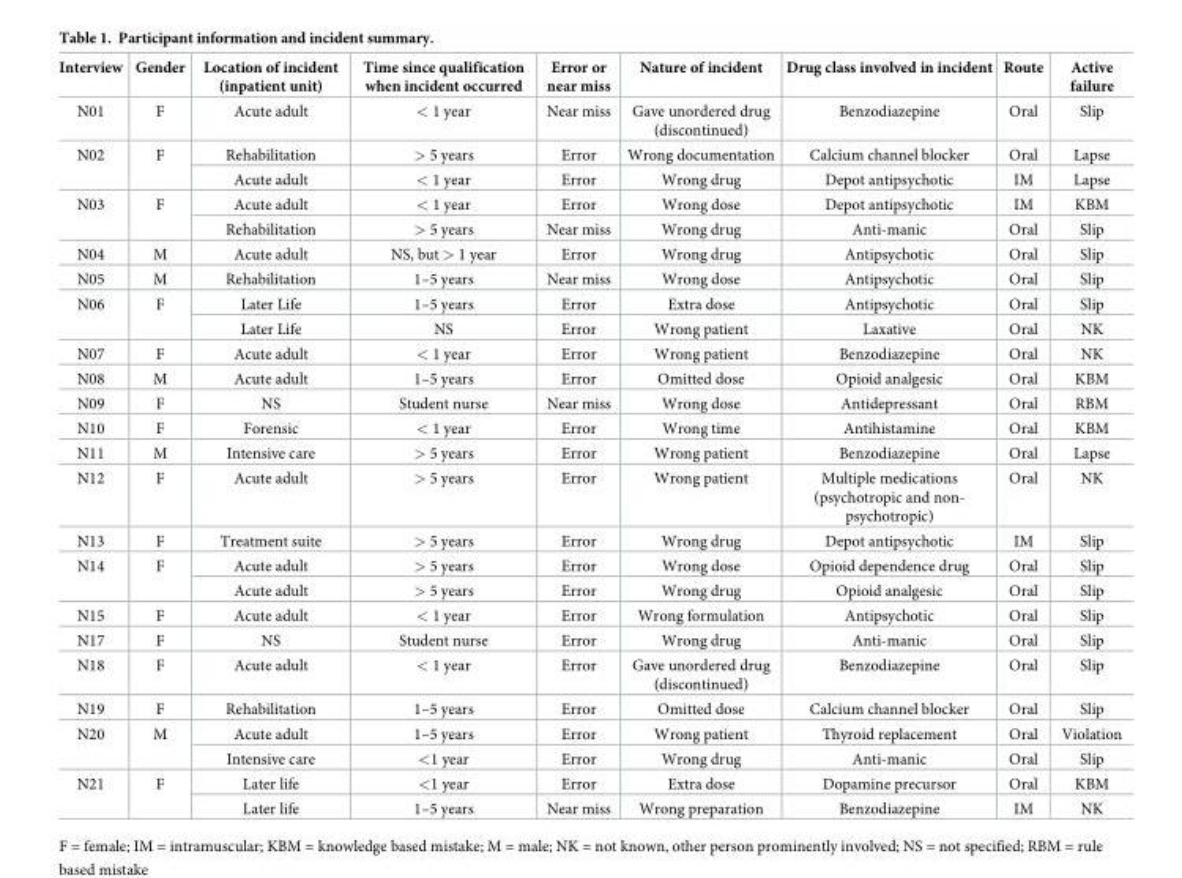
<table><thead><tr><td>Interview</td><td>Gender</td><td>Location of incident (inpatient unit)</td><td>Time since qualification when incident occurred</td><td>Error or near miss</td><td>Nature of incident</td><td>Drug class involved in incident</td><td>Route</td><td>Active failure</td></tr></thead><tbody><tr><td>N01</td><td>F</td><td>Acute adult</td><td>&lt; 1 year</td><td>Near miss</td><td>Gave unordered drug (discontinued)</td><td>Benzodiazepine</td><td>Oral</td><td>Slip</td></tr><tr><td rowspan="2">N02</td><td rowspan="2">F</td><td>Rehabilitation</td><td>&gt; 5 years</td><td>Error</td><td>Wrong documentation</td><td>Calcium channel blocker</td><td>Oral</td><td>Lapse</td></tr><tr><td>Acute adult</td><td>&lt; 1 year</td><td>Error</td><td>Wrong drug</td><td>Depot antipsychotic</td><td>IM</td><td>Lapse</td></tr><tr><td rowspan="2">N03</td><td rowspan="2">F</td><td>Acute adult</td><td>&lt; 1 year</td><td>Error</td><td>Wrong dose</td><td>Depot antipsychotic</td><td>IM</td><td>KBM</td></tr><tr><td>Rehabilitation</td><td>&gt; 5 years</td><td>Near miss</td><td>Wrong drug</td><td>Anti-manic</td><td>Oral</td><td>Slip</td></tr><tr><td>N04</td><td>M</td><td>Acute adult</td><td>NS, but &gt; 1 year</td><td>Error</td><td>Wrong drug</td><td>Antipsychotic</td><td>Oral</td><td>Slip</td></tr><tr><td>N05</td><td>M</td><td>Rehabilitation</td><td>1–5 years</td><td>Near miss</td><td>Wrong dose</td><td>Antipsychotic</td><td>Oral</td><td>Slip</td></tr><tr><td rowspan="2">N06</td><td rowspan="2">F</td><td>Later Life</td><td>1–5 years</td><td>Error</td><td>Extra dose</td><td>Antipsychotic</td><td>Oral</td><td>Slip</td></tr><tr><td>Later Life</td><td>NS</td><td>Error</td><td>Wrong patient</td><td>Laxative</td><td>Oral</td><td>NK</td></tr><tr><td>N07</td><td>F</td><td>Acute adult</td><td>&lt; 1 year</td><td>Error</td><td>Wrong patient</td><td>Benzodiazepine</td><td>Oral</td><td>NK</td></tr><tr><td>N08</td><td>M</td><td>Acute adult</td><td>1–5 years</td><td>Error</td><td>Omitted dose</td><td>Opioid analgesic</td><td>Oral</td><td>KBM</td></tr><tr><td>N09</td><td>F</td><td>NS</td><td>Student nurse</td><td>Near miss</td><td>Wrong dose</td><td>Antidepressant</td><td>Oral</td><td>RBM</td></tr><tr><td>N10</td><td>F</td><td>Forensic</td><td>&lt; 1 year</td><td>Error</td><td>Wrong time</td><td>Antihistamine</td><td>Oral</td><td>KBM</td></tr><tr><td>N11</td><td>M</td><td>Intensive care</td><td>&gt; 5 years</td><td>Error</td><td>Wrong patient</td><td>Benzodiazepine</td><td>Oral</td><td>Lapse</td></tr><tr><td>N12</td><td>F</td><td>Acute adult</td><td>&gt; 5 years</td><td>Error</td><td>Wrong patient</td><td>Multiple medications (psychotropic and non- psychotropic)</td><td>Oral</td><td>NK</td></tr><tr><td>N13</td><td>F</td><td>Treatment suite</td><td>&gt; 5 years</td><td>Error</td><td>Wrong drug</td><td>Depot antipsychotic</td><td>IM</td><td>Slip</td></tr><tr><td rowspan="2">N14</td><td rowspan="2">F</td><td>Acute adult</td><td>&gt; 5 years</td><td>Error</td><td>Wrong dose</td><td>Opioid dependence drug</td><td>Oral</td><td>Slip</td></tr><tr><td>Acute adult</td><td>&gt; 5 years</td><td>Error</td><td>Wrong drug</td><td>Opioid analgesic</td><td>Oral</td><td>Slip</td></tr><tr><td>N15</td><td>F</td><td>Acute adult</td><td>&lt; 1 year</td><td>Error</td><td>Wrong formulation</td><td>Antipsychotic</td><td>Oral</td><td>Slip</td></tr><tr><td>N17</td><td>F</td><td>NS</td><td>Student nurse</td><td>Error</td><td>Wrong drug</td><td>Anti-manic</td><td>Oral</td><td>Slip</td></tr><tr><td>N18</td><td>F</td><td>Acute adult</td><td>&lt; 1 year</td><td>Error</td><td>Gave unordered drug (discontinued)</td><td>Benzodiazepine</td><td>Oral</td><td>Slip</td></tr><tr><td>N19</td><td>F</td><td>Rehabilitation</td><td>1–5 years</td><td>Error</td><td>Omitted dose</td><td>Calcium channel blocker</td><td>Oral</td><td>Slip</td></tr><tr><td rowspan="2">N20</td><td rowspan="2">M</td><td>Acute adult</td><td>1–5 years</td><td>Error</td><td>Wrong patient</td><td>Thyroid replacement</td><td>Oral</td><td>Violation</td></tr><tr><td>Intensive care</td><td>&lt;1 year</td><td>Error</td><td>Wrong drug</td><td>Anti-manic</td><td>Oral</td><td>Slip</td></tr><tr><td rowspan="2">N21</td><td rowspan="2">F</td><td>Later life</td><td>&lt;1 year</td><td>Error</td><td>Extra dose</td><td>Dopamine precursor</td><td>Oral</td><td>KBM</td></tr><tr><td>Later life</td><td>1–5 years</td><td>Near miss</td><td>Wrong preparation</td><td>Benzodiazepine</td><td>IM</td><td>NK</td></tr></tbody></table>